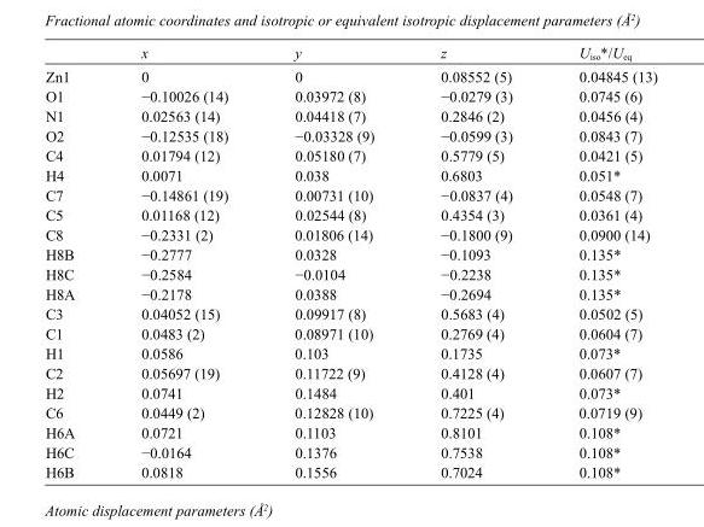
<table><thead><tr><td></td><td>x</td><td>y</td><td>z</td><td>U<sub>iso</sub>*/U<sub>eq</sub></td></tr></thead><tbody><tr><td>Zn1</td><td>0</td><td>0</td><td>0.08552 (5)</td><td>0.04845 (13)</td></tr><tr><td>O1</td><td>−0.10026 (14)</td><td>0.03972 (8)</td><td>−0.0279 (3)</td><td>0.0745 (6)</td></tr><tr><td>N1</td><td>0.02563 (14)</td><td>0.04418 (7)</td><td>0.2846 (2)</td><td>0.0456 (4)</td></tr><tr><td>O2</td><td>−0.12535 (18)</td><td>−0.03328 (9)</td><td>−0.0599 (3)</td><td>0.0843 (7)</td></tr><tr><td>C4</td><td>0.01794 (12)</td><td>0.05180 (7)</td><td>0.5779 (5)</td><td>0.0421 (5)</td></tr><tr><td>H4</td><td>0.0071</td><td>0.038</td><td>0.6803</td><td>0.051*</td></tr><tr><td>C7</td><td>−0.14861 (19)</td><td>0.00731 (10)</td><td>−0.0837 (4)</td><td>0.0548 (7)</td></tr><tr><td>C5</td><td>0.01168 (12)</td><td>0.02544 (8)</td><td>0.4354 (3)</td><td>0.0361 (4)</td></tr><tr><td>C8</td><td>−0.2331 (2)</td><td>0.01806 (14)</td><td>−0.1800 (9)</td><td>0.0900 (14)</td></tr><tr><td>H8B</td><td>−0.2777</td><td>0.0328</td><td>−0.1093</td><td>0.135*</td></tr><tr><td>H8C</td><td>−0.2584</td><td>−0.0104</td><td>−0.2238</td><td>0.135*</td></tr><tr><td>H8A</td><td>−0.2178</td><td>0.0388</td><td>−0.2694</td><td>0.135*</td></tr><tr><td>C3</td><td>0.04052 (15)</td><td>0.09917 (8)</td><td>0.5683 (4)</td><td>0.0502 (5)</td></tr><tr><td>C1</td><td>0.0483 (2)</td><td>0.08971 (10)</td><td>0.2769 (4)</td><td>0.0604 (7)</td></tr><tr><td>H1</td><td>0.0586</td><td>0.103</td><td>0.1735</td><td>0.073*</td></tr><tr><td>C2</td><td>0.05697 (19)</td><td>0.11722 (9)</td><td>0.4128 (4)</td><td>0.0607 (7)</td></tr><tr><td>H2</td><td>0.0741</td><td>0.1484</td><td>0.401</td><td>0.073*</td></tr><tr><td>C6</td><td>0.0449 (2)</td><td>0.12828 (10)</td><td>0.7225 (4)</td><td>0.0719 (9)</td></tr><tr><td>H6A</td><td>0.0721</td><td>0.1103</td><td>0.8101</td><td>0.108*</td></tr><tr><td>H6C</td><td>−0.0164</td><td>0.1376</td><td>0.7538</td><td>0.108*</td></tr><tr><td>H6B</td><td>0.0818</td><td>0.1556</td><td>0.7024</td><td>0.108*</td></tr></tbody></table>